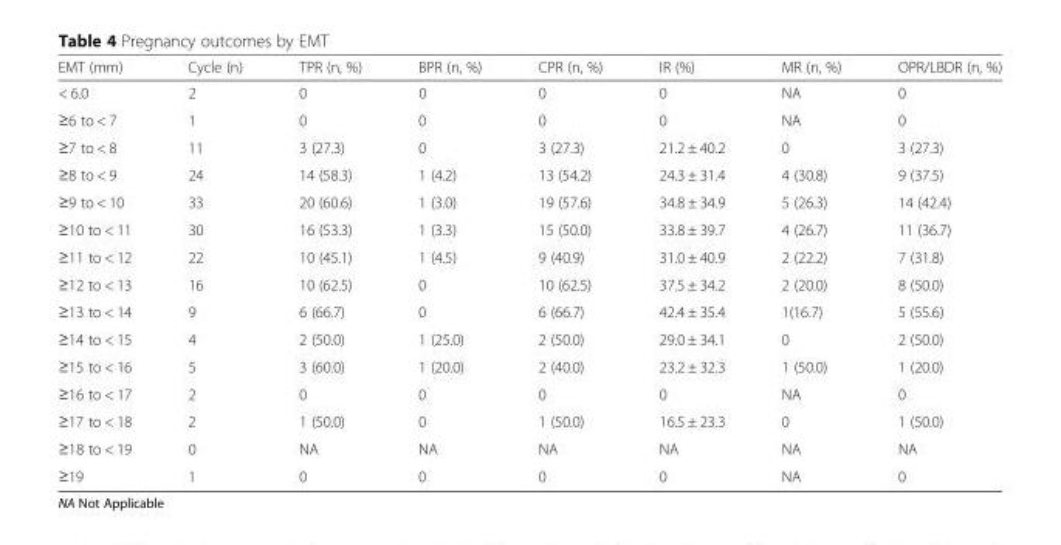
<table><thead><tr><td>EMT (mm)</td><td>Cycle (n)</td><td>TPR (n, %)</td><td>BPR (n, %)</td><td>CPR (n, %)</td><td>IR (%)</td><td>MR (n, %)</td><td>OPR/LBDR (n, %)</td></tr></thead><tbody><tr><td>&lt; 6.0</td><td>2</td><td>0</td><td>0</td><td>0</td><td>0</td><td>NA</td><td>0</td></tr><tr><td>≥6 to &lt; 7</td><td>1</td><td>0</td><td>0</td><td>0</td><td>0</td><td>NA</td><td>0</td></tr><tr><td>≥7 to &lt; 8</td><td>11</td><td>3 (27.3)</td><td>0</td><td>3 (27.3)</td><td>21.2 ± 40.2</td><td>0</td><td>3 (27.3)</td></tr><tr><td>≥8 to &lt; 9</td><td>24</td><td>14 (58.3)</td><td>1 (4.2)</td><td>13 (54.2)</td><td>24.3 ± 31.4</td><td>4 (30.8)</td><td>9 (37.5)</td></tr><tr><td>≥9 to &lt; 10</td><td>33</td><td>20 (60.6)</td><td>1 (3.0)</td><td>19 (57.6)</td><td>34.8 ± 34.9</td><td>5 (26.3)</td><td>14 (42.4)</td></tr><tr><td>≥10 to &lt; 11</td><td>30</td><td>16 (53.3)</td><td>1 (3.3)</td><td>15 (50.0)</td><td>33.8 ± 39.7</td><td>4 (26.7)</td><td>11 (36.7)</td></tr><tr><td>≥11 to &lt; 12</td><td>22</td><td>10 (45.1)</td><td>1 (4.5)</td><td>9 (40.9)</td><td>31.0 ± 40.9</td><td>2 (22.2)</td><td>7 (31.8)</td></tr><tr><td>≥12 to &lt; 13</td><td>16</td><td>10 (62.5)</td><td>0</td><td>10 (62.5)</td><td>37.5 ± 34.2</td><td>2 (20.0)</td><td>8 (50.0)</td></tr><tr><td>≥13 to &lt; 14</td><td>9</td><td>6 (66.7)</td><td>0</td><td>6 (66.7)</td><td>42.4 ± 35.4</td><td>1(16.7)</td><td>5 (55.6)</td></tr><tr><td>≥14 to &lt; 15</td><td>4</td><td>2 (50.0)</td><td>1 (25.0)</td><td>2 (50.0)</td><td>29.0 ± 34.1</td><td>0</td><td>2 (50.0)</td></tr><tr><td>≥15 to &lt; 16</td><td>5</td><td>3 (60.0)</td><td>1 (20.0)</td><td>2 (40.0)</td><td>23.2 ± 32.3</td><td>1 (50.0)</td><td>1 (20.0)</td></tr><tr><td>≥16 to &lt; 17</td><td>2</td><td>0</td><td>0</td><td>0</td><td>0</td><td>NA</td><td>0</td></tr><tr><td>≥17 to &lt; 18</td><td>2</td><td>1 (50.0)</td><td>0</td><td>1 (50.0)</td><td>16.5 ± 23.3</td><td>0</td><td>1 (50.0)</td></tr><tr><td>≥18 to &lt; 19</td><td>0</td><td>NA</td><td>NA</td><td>NA</td><td>NA</td><td>NA</td><td>NA</td></tr><tr><td>≥19</td><td>1</td><td>0</td><td>0</td><td>0</td><td>0</td><td>NA</td><td>0</td></tr></tbody></table>